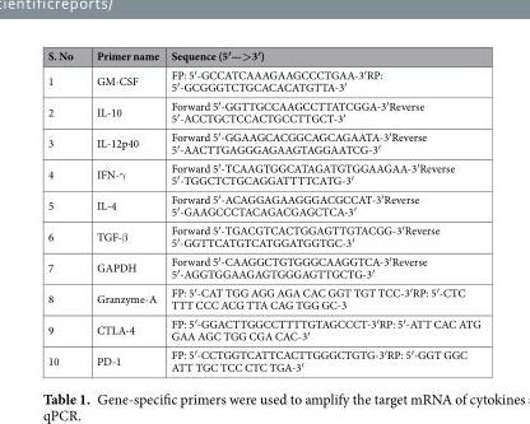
<table><thead><tr><td>S. No</td><td>Primer name</td><td>Sequence (5′—&gt;3′)</td></tr></thead><tbody><tr><td>1</td><td>GM-CSF</td><td>FP: 5′-GCCATCAAAGAAGCCCTGAA-3′RP: 5′-GCGGGTCTGCACACATGTTA-3′</td></tr><tr><td>2</td><td>IL-10</td><td>Forward 5′-GGTTGCCAAGCCTTATCGGA-3′Reverse 5′-ACCTGCTCCACTGCCTTGCT-3′</td></tr><tr><td>3</td><td>IL-12p40</td><td>Forward 5′-GGAAGCACGGCAGCAGAATA-3′Reverse 5′-AACTTGAGGGAGAAGTAGGAATCG-3′</td></tr><tr><td>4</td><td>IFN-γ</td><td>Forward 5′-TCAAGTGGCATAGATGTGGAAGAA-3′Reverse 5′-TGGCTCTGCAGGATTTTCATG-3′</td></tr><tr><td>5</td><td>IL-4</td><td>Forward 5′-ACAGGAGAAGGGACGCCAT-3′Reverse 5′-GAAGCCCTACAGACGAGCTCA-3′</td></tr><tr><td>6</td><td>TGF-β</td><td>Forward 5′-TGACGTCACTGGAGTTGTACGG-3′Reverse 5′-GGTTCATGTCATGGATGGTGC-3′</td></tr><tr><td>7</td><td>GAPDH</td><td>Forward 5′-CAAGGCTGTGGGCAAGGTCA-3′Reverse 5′-AGGTGGAAGAGTGGGAGTTGCTG-3′</td></tr><tr><td>8</td><td>Granzyme-A</td><td>FP: 5′-CAT TGG AGG AGA CAC GGT TGT TCC-3′RP: 5′-CTC TTT CCC ACG TTA CAG TGG GC-3</td></tr><tr><td>9</td><td>CTLA-4</td><td>FP: 5′-GGACTTGGCCTTTTGTAGCCCT-3′RP: 5′-ATT CAC ATG GAA AGC TGG CGA CAC-3′</td></tr><tr><td>10</td><td>PD-1</td><td>FP: 5′-CCTGGTCATTCACTTGGGCTGTG-3′RP: 5′-GGT GGC ATT TGC TCC CTC TGA-3′</td></tr></tbody></table>